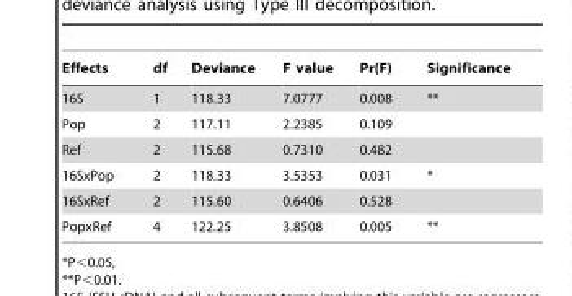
<table><thead><tr><td>Effects</td><td>df</td><td>Deviance</td><td>F value</td><td>Pr(F)</td><td>Significance</td></tr></thead><tbody><tr><td>16S</td><td>1</td><td>118.33</td><td>7.0777</td><td>0.008</td><td>**</td></tr><tr><td>Pop</td><td>2</td><td>117.11</td><td>2.2385</td><td>0.109</td><td></td></tr><tr><td>Ref</td><td>2</td><td>115.68</td><td>0.7310</td><td>0.482</td><td></td></tr><tr><td>16SxPop</td><td>2</td><td>118.33</td><td>3.5353</td><td>0.031</td><td>*</td></tr><tr><td>16SxRef</td><td>2</td><td>115.60</td><td>0.6406</td><td>0.528</td><td></td></tr><tr><td>PopxRef</td><td>4</td><td>122.25</td><td>3.8508</td><td>0.005</td><td>**</td></tr></tbody></table>